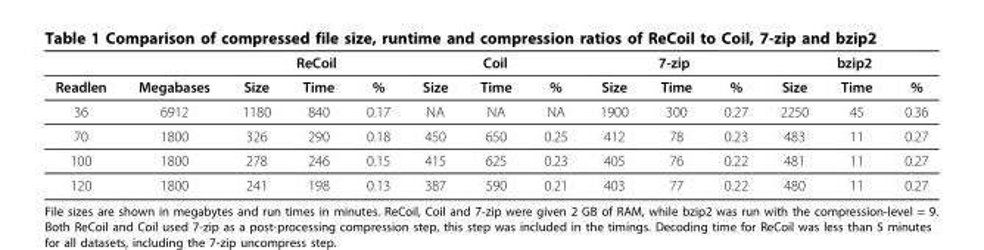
<table><thead><tr><td rowspan="2">Readlen</td><td rowspan="2">Megabases</td><td colspan="3">ReCoil</td><td colspan="3">Coil</td><td colspan="3">7-zip</td><td colspan="3">bzip2</td></tr><tr><td>Size</td><td>Time</td><td>%</td><td>Size</td><td>Time</td><td>%</td><td>Size</td><td>Time</td><td>%</td><td>Size</td><td>Time</td><td>%</td></tr></thead><tbody><tr><td>36</td><td>6912</td><td>1180</td><td>840</td><td>0.17</td><td>NA</td><td>NA</td><td>NA</td><td>1900</td><td>300</td><td>0.27</td><td>2250</td><td>45</td><td>0.36</td></tr><tr><td>70</td><td>1800</td><td>326</td><td>290</td><td>0.18</td><td>450</td><td>650</td><td>0.25</td><td>412</td><td>78</td><td>0.23</td><td>483</td><td>11</td><td>0.27</td></tr><tr><td>100</td><td>1800</td><td>278</td><td>246</td><td>0.15</td><td>415</td><td>625</td><td>0.23</td><td>405</td><td>76</td><td>0.22</td><td>481</td><td>11</td><td>0.27</td></tr><tr><td>120</td><td>1800</td><td>241</td><td>198</td><td>0.13</td><td>387</td><td>590</td><td>0.21</td><td>403</td><td>77</td><td>0.22</td><td>480</td><td>11</td><td>0.27</td></tr></tbody></table>